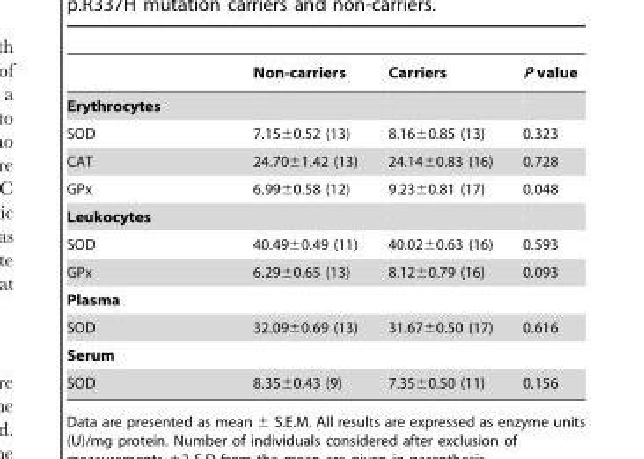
<table><thead><tr><td></td><td>Non-carriers</td><td>Carriers</td><td>P value</td></tr></thead><tbody><tr><td colspan="4">Erythrocytes</td></tr><tr><td>SOD</td><td>7.15±0.52 (13)</td><td>8.16±0.85 (13)</td><td>0.323</td></tr><tr><td>CAT</td><td>24.70±1.42 (13)</td><td>24.14±0.83 (16)</td><td>0.728</td></tr><tr><td>GPx</td><td>6.99±0.58 (12)</td><td>9.23±0.81 (17)</td><td>0.048</td></tr><tr><td colspan="4">Leukocytes</td></tr><tr><td>SOD</td><td>40.49±0.49 (11)</td><td>40.02±0.63 (16)</td><td>0.593</td></tr><tr><td>GPx</td><td>6.29±0.65 (13)</td><td>8.12±0.79 (16)</td><td>0.093</td></tr><tr><td colspan="4">Plasma</td></tr><tr><td>SOD</td><td>32.09±0.69 (13)</td><td>31.67±0.50 (17)</td><td>0.616</td></tr><tr><td colspan="4">Serum</td></tr><tr><td>SOD</td><td>8.35±0.43 (9)</td><td>7.35±0.50 (11)</td><td>0.156</td></tr></tbody></table>